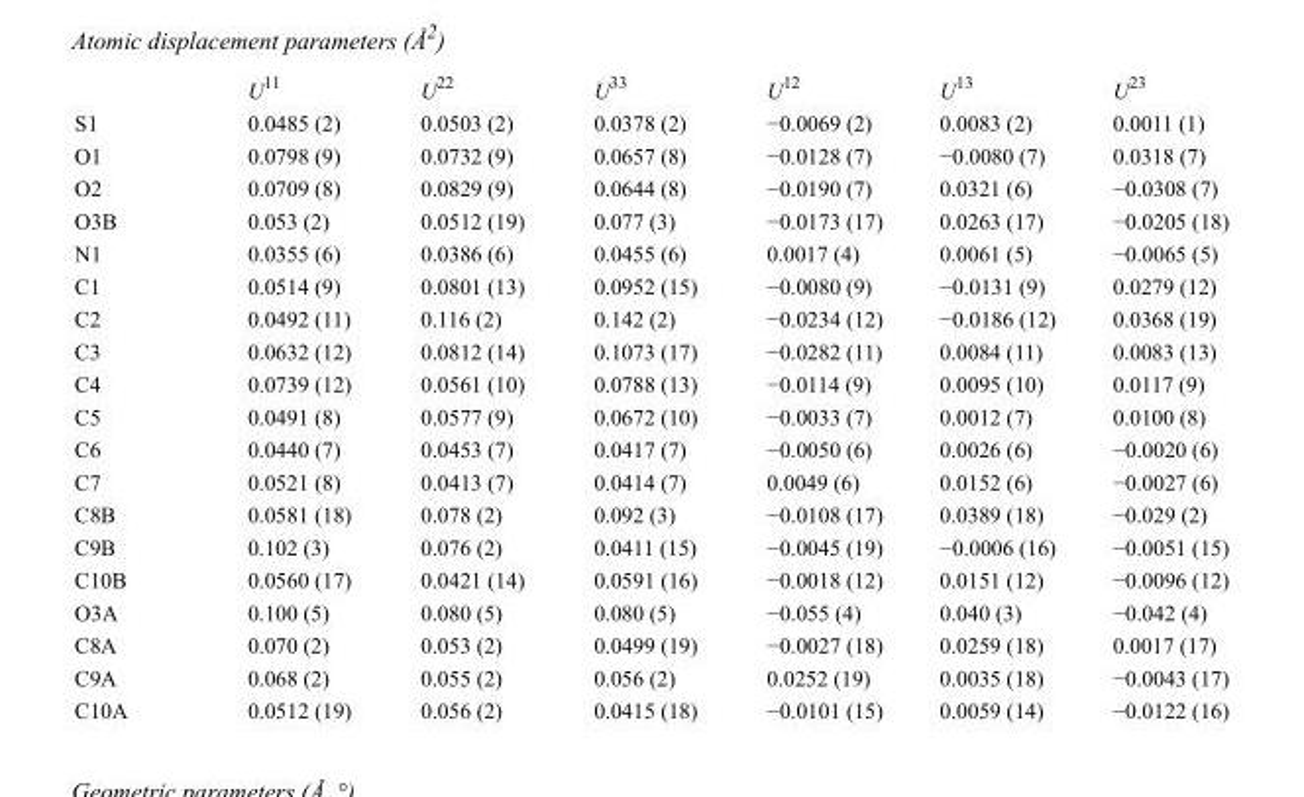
<table><thead><tr><td></td><td>U<sup>11</sup></td><td>U<sup>22</sup></td><td>U<sup>33</sup></td><td>U<sup>12</sup></td><td>U<sup>13</sup></td><td>U<sup>23</sup></td></tr></thead><tbody><tr><td>S1</td><td>0.0485 (2)</td><td>0.0503 (2)</td><td>0.0378 (2)</td><td>−0.0069 (2)</td><td>0.0083 (2)</td><td>0.0011 (1)</td></tr><tr><td>O1</td><td>0.0798 (9)</td><td>0.0732 (9)</td><td>0.0657 (8)</td><td>−0.0128 (7)</td><td>−0.0080 (7)</td><td>0.0318 (7)</td></tr><tr><td>O2</td><td>0.0709 (8)</td><td>0.0829 (9)</td><td>0.0644 (8)</td><td>−0.0190 (7)</td><td>0.0321 (6)</td><td>−0.0308 (7)</td></tr><tr><td>O3B</td><td>0.053 (2)</td><td>0.0512 (19)</td><td>0.077 (3)</td><td>−0.0173 (17)</td><td>0.0263 (17)</td><td>−0.0205 (18)</td></tr><tr><td>N1</td><td>0.0355 (6)</td><td>0.0386 (6)</td><td>0.0455 (6)</td><td>0.0017 (4)</td><td>0.0061 (5)</td><td>−0.0065 (5)</td></tr><tr><td>C1</td><td>0.0514 (9)</td><td>0.0801 (13)</td><td>0.0952 (15)</td><td>−0.0080 (9)</td><td>−0.0131 (9)</td><td>0.0279 (12)</td></tr><tr><td>C2</td><td>0.0492 (11)</td><td>0.116 (2)</td><td>0.142 (2)</td><td>−0.0234 (12)</td><td>−0.0186 (12)</td><td>0.0368 (19)</td></tr><tr><td>C3</td><td>0.0632 (12)</td><td>0.0812 (14)</td><td>0.1073 (17)</td><td>−0.0282 (11)</td><td>0.0084 (11)</td><td>0.0083 (13)</td></tr><tr><td>C4</td><td>0.0739 (12)</td><td>0.0561 (10)</td><td>0.0788 (13)</td><td>−0.0114 (9)</td><td>0.0095 (10)</td><td>0.0117 (9)</td></tr><tr><td>C5</td><td>0.0491 (8)</td><td>0.0577 (9)</td><td>0.0672 (10)</td><td>−0.0033 (7)</td><td>0.0012 (7)</td><td>0.0100 (8)</td></tr><tr><td>C6</td><td>0.0440 (7)</td><td>0.0453 (7)</td><td>0.0417 (7)</td><td>−0.0050 (6)</td><td>0.0026 (6)</td><td>−0.0020 (6)</td></tr><tr><td>C7</td><td>0.0521 (8)</td><td>0.0413 (7)</td><td>0.0414 (7)</td><td>0.0049 (6)</td><td>0.0152 (6)</td><td>−0.0027 (6)</td></tr><tr><td>C8B</td><td>0.0581 (18)</td><td>0.078 (2)</td><td>0.092 (3)</td><td>−0.0108 (17)</td><td>0.0389 (18)</td><td>−0.029 (2)</td></tr><tr><td>C9B</td><td>0.102 (3)</td><td>0.076 (2)</td><td>0.0411 (15)</td><td>−0.0045 (19)</td><td>−0.0006 (16)</td><td>−0.0051 (15)</td></tr><tr><td>C10B</td><td>0.0560 (17)</td><td>0.0421 (14)</td><td>0.0591 (16)</td><td>−0.0018 (12)</td><td>0.0151 (12)</td><td>−0.0096 (12)</td></tr><tr><td>O3A</td><td>0.100 (5)</td><td>0.080 (5)</td><td>0.080 (5)</td><td>−0.055 (4)</td><td>0.040 (3)</td><td>−0.042 (4)</td></tr><tr><td>C8A</td><td>0.070 (2)</td><td>0.053 (2)</td><td>0.0499 (19)</td><td>−0.0027 (18)</td><td>0.0259 (18)</td><td>0.0017 (17)</td></tr><tr><td>C9A</td><td>0.068 (2)</td><td>0.055 (2)</td><td>0.056 (2)</td><td>0.0252 (19)</td><td>0.0035 (18)</td><td>−0.0043 (17)</td></tr><tr><td>C10A</td><td>0.0512 (19)</td><td>0.056 (2)</td><td>0.0415 (18)</td><td>−0.0101 (15)</td><td>0.0059 (14)</td><td>−0.0122 (16)</td></tr></tbody></table>